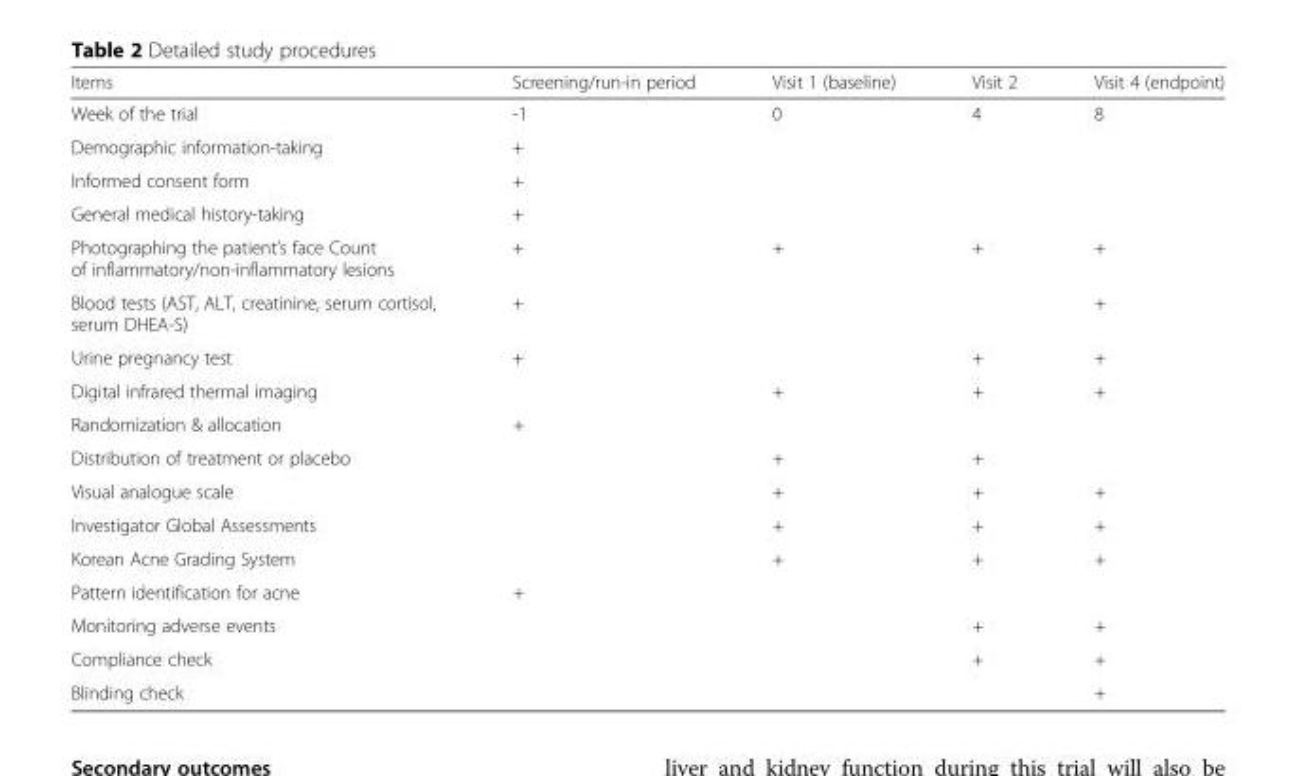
<table><thead><tr><td>Items</td><td>Screening/run-in period</td><td>Visit 1 (baseline)</td><td>Visit 2</td><td>Visit 4 (endpoint)</td></tr></thead><tbody><tr><td>Week of the trial</td><td>-1</td><td>0</td><td>4</td><td>8</td></tr><tr><td>Demographic information-taking</td><td>+</td><td></td><td></td><td></td></tr><tr><td>Informed consent form</td><td>+</td><td></td><td></td><td></td></tr><tr><td>General medical history-taking</td><td>+</td><td></td><td></td><td></td></tr><tr><td>Photographing the patient’s face Count of inflammatory/non-inflammatory lesions</td><td>+</td><td>+</td><td>+</td><td>+</td></tr><tr><td>Blood tests (AST, ALT, creatinine, serum cortisol, serum DHEA-S)</td><td>+</td><td></td><td></td><td>+</td></tr><tr><td>Urine pregnancy test</td><td>+</td><td></td><td>+</td><td>+</td></tr><tr><td>Digital infrared thermal imaging</td><td></td><td>+</td><td>+</td><td>+</td></tr><tr><td>Randomization &amp; allocation</td><td>+</td><td></td><td></td><td></td></tr><tr><td>Distribution of treatment or placebo</td><td></td><td>+</td><td>+</td><td></td></tr><tr><td>Visual analogue scale</td><td></td><td>+</td><td>+</td><td>+</td></tr><tr><td>Investigator Global Assessments</td><td></td><td>+</td><td>+</td><td>+</td></tr><tr><td>Korean Acne Grading System</td><td></td><td>+</td><td>+</td><td>+</td></tr><tr><td>Pattern identification for acne</td><td>+</td><td></td><td></td><td></td></tr><tr><td>Monitoring adverse events</td><td></td><td></td><td>+</td><td>+</td></tr><tr><td>Compliance check</td><td></td><td></td><td>+</td><td>+</td></tr><tr><td>Blinding check</td><td></td><td></td><td></td><td>+</td></tr></tbody></table>